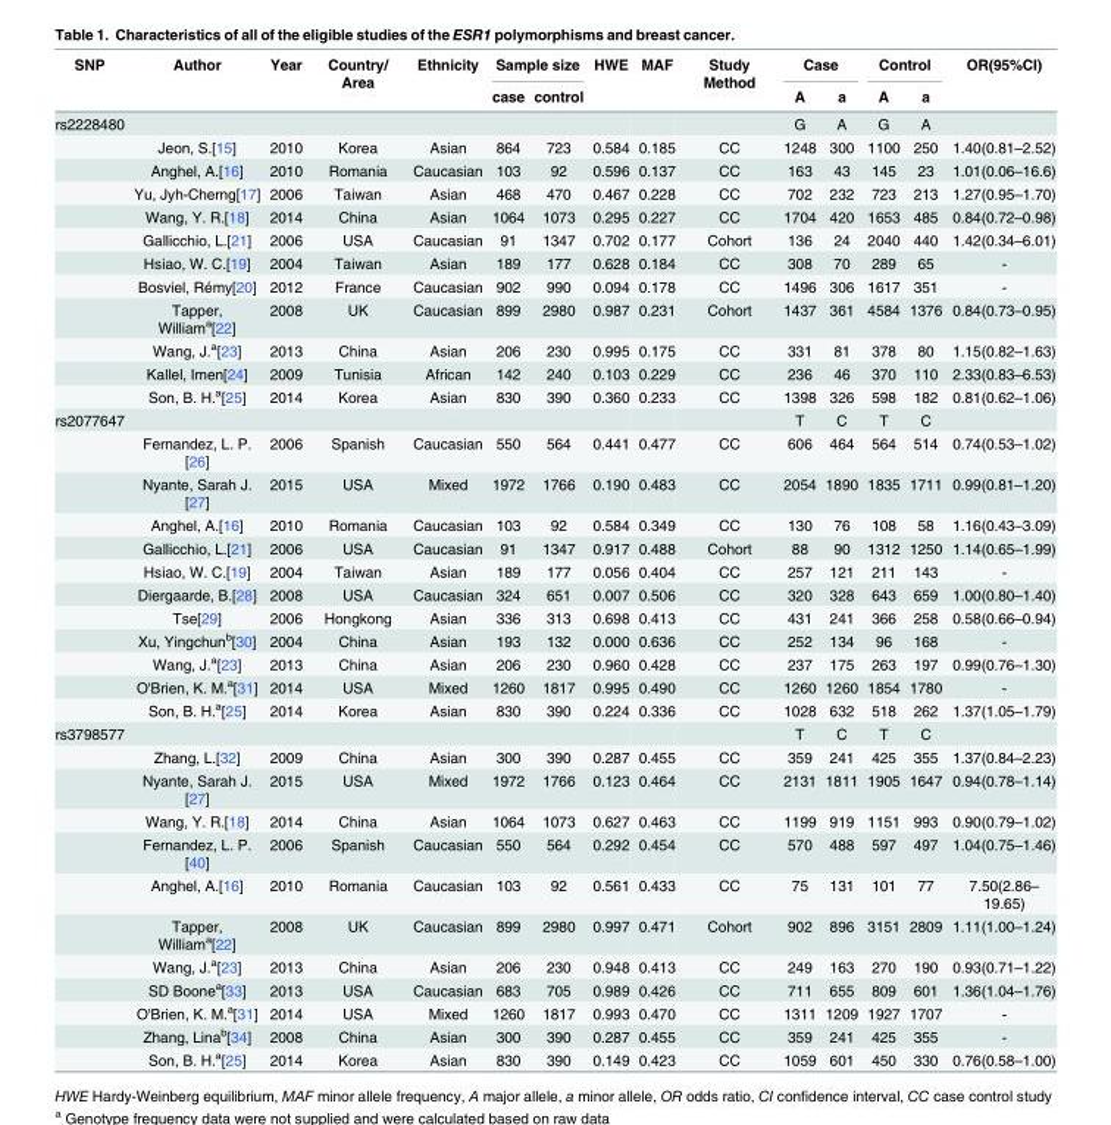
<table><thead><tr><td rowspan="2">SNP</td><td rowspan="2">Author</td><td rowspan="2">Year</td><td rowspan="2">Country/ Area</td><td rowspan="2">Ethnicity</td><td colspan="2">Sample size</td><td rowspan="2">HWE</td><td rowspan="2">MAF</td><td rowspan="2">Study Method</td><td colspan="2">Case</td><td colspan="2">Control</td><td rowspan="2">OR(95%CI)</td></tr><tr><td>case</td><td>control</td><td>A</td><td>a</td><td>A</td><td>a</td></tr></thead><tbody><tr><td rowspan="12">rs2228480</td><td></td><td></td><td></td><td></td><td></td><td></td><td></td><td></td><td></td><td>G</td><td>A</td><td>G</td><td>A</td><td></td></tr><tr><td>Jeon, S.[15]</td><td>2010</td><td>Korea</td><td>Asian</td><td>864</td><td>723</td><td>0.584</td><td>0.185</td><td>CC</td><td>1248</td><td>300</td><td>1100</td><td>250</td><td>1.40(0.81–2.52)</td></tr><tr><td>Anghel, A.[16]</td><td>2010</td><td>Romania</td><td>Caucasian</td><td>103</td><td>92</td><td>0.596</td><td>0.137</td><td>CC</td><td>163</td><td>43</td><td>145</td><td>23</td><td>1.01(0.06–16.6)</td></tr><tr><td>Yu, Jyh-Cherng[17]</td><td>2006</td><td>Taiwan</td><td>Asian</td><td>468</td><td>470</td><td>0.467</td><td>0.228</td><td>CC</td><td>702</td><td>232</td><td>723</td><td>213</td><td>1.27(0.95–1.70)</td></tr><tr><td>Wang, Y. R.[18]</td><td>2014</td><td>China</td><td>Asian</td><td>1064</td><td>1073</td><td>0.295</td><td>0.227</td><td>CC</td><td>1704</td><td>420</td><td>1653</td><td>485</td><td>0.84(0.72–0.98)</td></tr><tr><td>Gallicchio, L.[21]</td><td>2006</td><td>USA</td><td>Caucasian</td><td>91</td><td>1347</td><td>0.702</td><td>0.177</td><td>Cohort</td><td>136</td><td>24</td><td>2040</td><td>440</td><td>1.42(0.34–6.01)</td></tr><tr><td>Hsiao, W. C.[19]</td><td>2004</td><td>Taiwan</td><td>Asian</td><td>189</td><td>177</td><td>0.628</td><td>0.184</td><td>CC</td><td>308</td><td>70</td><td>289</td><td>65</td><td>-</td></tr><tr><td>Bosviel, Rémy[20]</td><td>2012</td><td>France</td><td>Caucasian</td><td>902</td><td>990</td><td>0.094</td><td>0.178</td><td>CC</td><td>1496</td><td>306</td><td>1617</td><td>351</td><td>-</td></tr><tr><td>Tapper, William<sup>a</sup>[22]</td><td>2008</td><td>UK</td><td>Caucasian</td><td>899</td><td>2980</td><td>0.987</td><td>0.231</td><td>Cohort</td><td>1437</td><td>361</td><td>4584</td><td>1376</td><td>0.84(0.73–0.95)</td></tr><tr><td>Wang, J.<sup>a</sup>[23]</td><td>2013</td><td>China</td><td>Asian</td><td>206</td><td>230</td><td>0.995</td><td>0.175</td><td>CC</td><td>331</td><td>81</td><td>378</td><td>80</td><td>1.15(0.82–1.63)</td></tr><tr><td>Kallel, Imen[24]</td><td>2009</td><td>Tunisia</td><td>African</td><td>142</td><td>240</td><td>0.103</td><td>0.229</td><td>CC</td><td>236</td><td>46</td><td>370</td><td>110</td><td>2.33(0.83–6.53)</td></tr><tr><td>Son, B. H.<sup>a</sup>[25]</td><td>2014</td><td>Korea</td><td>Asian</td><td>830</td><td>390</td><td>0.360</td><td>0.233</td><td>CC</td><td>1398</td><td>326</td><td>598</td><td>182</td><td>0.81(0.62–1.06)</td></tr><tr><td rowspan="12">rs2077647</td><td></td><td></td><td></td><td></td><td></td><td></td><td></td><td></td><td></td><td>T</td><td>C</td><td>T</td><td>C</td><td></td></tr><tr><td>Fernandez, L. P. [26]</td><td>2006</td><td>Spanish</td><td>Caucasian</td><td>550</td><td>564</td><td>0.441</td><td>0.477</td><td>CC</td><td>606</td><td>464</td><td>564</td><td>514</td><td>0.74(0.53–1.02)</td></tr><tr><td>Nyante, Sarah J. [27]</td><td>2015</td><td>USA</td><td>Mixed</td><td>1972</td><td>1766</td><td>0.190</td><td>0.483</td><td>CC</td><td>2054</td><td>1890</td><td>1835</td><td>1711</td><td>0.99(0.81–1.20)</td></tr><tr><td>Anghel, A.[16]</td><td>2010</td><td>Romania</td><td>Caucasian</td><td>103</td><td>92</td><td>0.584</td><td>0.349</td><td>CC</td><td>130</td><td>76</td><td>108</td><td>58</td><td>1.16(0.43–3.09)</td></tr><tr><td>Gallicchio, L.[21]</td><td>2006</td><td>USA</td><td>Caucasian</td><td>91</td><td>1347</td><td>0.917</td><td>0.488</td><td>Cohort</td><td>88</td><td>90</td><td>1312</td><td>1250</td><td>1.14(0.65–1.99)</td></tr><tr><td>Hsiao, W. C.[19]</td><td>2004</td><td>Taiwan</td><td>Asian</td><td>189</td><td>177</td><td>0.056</td><td>0.404</td><td>CC</td><td>257</td><td>121</td><td>211</td><td>143</td><td>-</td></tr><tr><td>Diergaarde, B.[28]</td><td>2008</td><td>USA</td><td>Caucasian</td><td>324</td><td>651</td><td>0.007</td><td>0.506</td><td>CC</td><td>320</td><td>328</td><td>643</td><td>659</td><td>1.00(0.80–1.40)</td></tr><tr><td>Tse[29]</td><td>2006</td><td>Hongkong</td><td>Asian</td><td>336</td><td>313</td><td>0.698</td><td>0.413</td><td>CC</td><td>431</td><td>241</td><td>366</td><td>258</td><td>0.58(0.66–0.94)</td></tr><tr><td>Xu, Yingchun<sup>b</sup>[30]</td><td>2004</td><td>China</td><td>Asian</td><td>193</td><td>132</td><td>0.000</td><td>0.636</td><td>CC</td><td>252</td><td>134</td><td>96</td><td>168</td><td>-</td></tr><tr><td>Wang, J.<sup>a</sup>[23]</td><td>2013</td><td>China</td><td>Asian</td><td>206</td><td>230</td><td>0.960</td><td>0.428</td><td>CC</td><td>237</td><td>175</td><td>263</td><td>197</td><td>0.99(0.76–1.30)</td></tr><tr><td>O&#x27;Brien, K. M.<sup>a</sup>[31]</td><td>2014</td><td>USA</td><td>Mixed</td><td>1260</td><td>1817</td><td>0.995</td><td>0.490</td><td>CC</td><td>1260</td><td>1260</td><td>1854</td><td>1780</td><td>-</td></tr><tr><td>Son, B. H.<sup>a</sup>[25]</td><td>2014</td><td>Korea</td><td>Asian</td><td>830</td><td>390</td><td>0.224</td><td>0.336</td><td>CC</td><td>1028</td><td>632</td><td>518</td><td>262</td><td>1.37(1.05–1.79)</td></tr><tr><td rowspan="12">rs3798577</td><td></td><td></td><td></td><td></td><td></td><td></td><td></td><td></td><td></td><td>T</td><td>C</td><td>T</td><td>C</td><td></td></tr><tr><td>Zhang, L.[32]</td><td>2009</td><td>China</td><td>Asian</td><td>300</td><td>390</td><td>0.287</td><td>0.455</td><td>CC</td><td>359</td><td>241</td><td>425</td><td>355</td><td>1.37(0.84–2.23)</td></tr><tr><td>Nyante, Sarah J. [27]</td><td>2015</td><td>USA</td><td>Mixed</td><td>1972</td><td>1766</td><td>0.123</td><td>0.464</td><td>CC</td><td>2131</td><td>1811</td><td>1905</td><td>1647</td><td>0.94(0.78–1.14)</td></tr><tr><td>Wang, Y. R.[18]</td><td>2014</td><td>China</td><td>Asian</td><td>1064</td><td>1073</td><td>0.627</td><td>0.463</td><td>CC</td><td>1199</td><td>919</td><td>1151</td><td>993</td><td>0.90(0.79–1.02)</td></tr><tr><td>Fernandez, L. P. [40]</td><td>2006</td><td>Spanish</td><td>Caucasian</td><td>550</td><td>564</td><td>0.292</td><td>0.454</td><td>CC</td><td>570</td><td>488</td><td>597</td><td>497</td><td>1.04(0.75–1.46)</td></tr><tr><td>Anghel, A.[16]</td><td>2010</td><td>Romania</td><td>Caucasian</td><td>103</td><td>92</td><td>0.561</td><td>0.433</td><td>CC</td><td>75</td><td>131</td><td>101</td><td>77</td><td>7.50(2.86– 19.65)</td></tr><tr><td>Tapper, William<sup>a</sup>[22]</td><td>2008</td><td>UK</td><td>Caucasian</td><td>899</td><td>2980</td><td>0.997</td><td>0.471</td><td>Cohort</td><td>902</td><td>896</td><td>3151</td><td>2809</td><td>1.11(1.00–1.24)</td></tr><tr><td>Wang, J.<sup>a</sup>[23]</td><td>2013</td><td>China</td><td>Asian</td><td>206</td><td>230</td><td>0.948</td><td>0.413</td><td>CC</td><td>249</td><td>163</td><td>270</td><td>190</td><td>0.93(0.71–1.22)</td></tr><tr><td>SD Boone<sup>a</sup>[33]</td><td>2013</td><td>USA</td><td>Caucasian</td><td>683</td><td>705</td><td>0.989</td><td>0.426</td><td>CC</td><td>711</td><td>655</td><td>809</td><td>601</td><td>1.36(1.04–1.76)</td></tr><tr><td>O&#x27;Brien, K. M.<sup>a</sup>[31]</td><td>2014</td><td>USA</td><td>Mixed</td><td>1260</td><td>1817</td><td>0.993</td><td>0.470</td><td>CC</td><td>1311</td><td>1209</td><td>1927</td><td>1707</td><td>-</td></tr><tr><td>Zhang, Lina<sup>b</sup>[34]</td><td>2008</td><td>China</td><td>Asian</td><td>300</td><td>390</td><td>0.287</td><td>0.455</td><td>CC</td><td>359</td><td>241</td><td>425</td><td>355</td><td>-</td></tr><tr><td>Son, B. H.<sup>a</sup>[25]</td><td>2014</td><td>Korea</td><td>Asian</td><td>830</td><td>390</td><td>0.149</td><td>0.423</td><td>CC</td><td>1059</td><td>601</td><td>450</td><td>330</td><td>0.76(0.58–1.00)</td></tr></tbody></table>